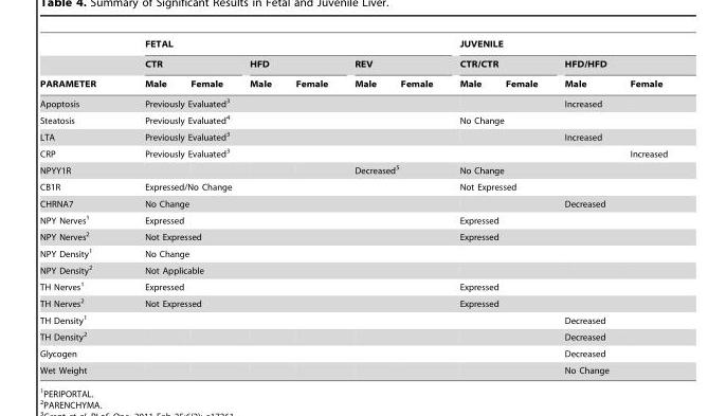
<table><thead><tr><td rowspan="3">PARAMETER</td><td colspan="6">FETAL</td><td colspan="4">JUVENILE</td></tr><tr><td colspan="2">CTR</td><td colspan="2">HFD</td><td colspan="2">REV</td><td colspan="2">CTR/CTR</td><td colspan="2">HFD/HFD</td></tr><tr><td>Male</td><td>Female</td><td>Male</td><td>Female</td><td>Male</td><td>Female</td><td>Male</td><td>Female</td><td>Male</td><td>Female</td></tr></thead><tbody><tr><td>Apoptosis</td><td colspan="6">Previously Evaluated<sup>3</sup></td><td></td><td></td><td>Increased</td><td></td></tr><tr><td>Steatosis</td><td colspan="6">Previously Evaluated<sup>4</sup></td><td colspan="4">No Change</td></tr><tr><td>LTA</td><td colspan="6">Previously Evaluated<sup>3</sup></td><td></td><td></td><td colspan="2">Increased</td></tr><tr><td>CRP</td><td colspan="6">Previously Evaluated<sup>3</sup></td><td></td><td></td><td></td><td>Increased</td></tr><tr><td>NPYY1R</td><td></td><td></td><td></td><td></td><td colspan="2">Decreased<sup>5</sup></td><td colspan="4">No Change</td></tr><tr><td>CB1R</td><td colspan="6">Expressed/No Change</td><td colspan="4">Not Expressed</td></tr><tr><td>CHRNA7</td><td colspan="6">No Change</td><td></td><td></td><td colspan="2">Decreased</td></tr><tr><td>NPY Nerves<sup>1</sup></td><td colspan="6">Expressed</td><td colspan="4">Expressed</td></tr><tr><td>NPY Nerves<sup>2</sup></td><td colspan="6">Not Expressed</td><td colspan="4">Expressed</td></tr><tr><td>NPY Density<sup>1</sup></td><td colspan="6">No Change</td><td></td><td></td><td></td><td></td></tr><tr><td>NPY Density<sup>2</sup></td><td colspan="6">Not Applicable</td><td></td><td></td><td></td><td></td></tr><tr><td>TH Nerves<sup>1</sup></td><td colspan="6">Expressed</td><td colspan="4">Expressed</td></tr><tr><td>TH Nerves<sup>2</sup></td><td colspan="6">Not Expressed</td><td colspan="4">Expressed</td></tr><tr><td>TH Density<sup>1</sup></td><td></td><td></td><td></td><td></td><td></td><td></td><td></td><td></td><td>Decreased</td><td></td></tr><tr><td>TH Density<sup>2</sup></td><td></td><td></td><td></td><td></td><td></td><td></td><td></td><td></td><td>Decreased</td><td></td></tr><tr><td>Glycogen</td><td></td><td></td><td></td><td></td><td></td><td></td><td></td><td></td><td>Decreased</td><td></td></tr><tr><td>Wet Weight</td><td></td><td></td><td></td><td></td><td></td><td></td><td></td><td></td><td colspan="2">No Change</td></tr></tbody></table>